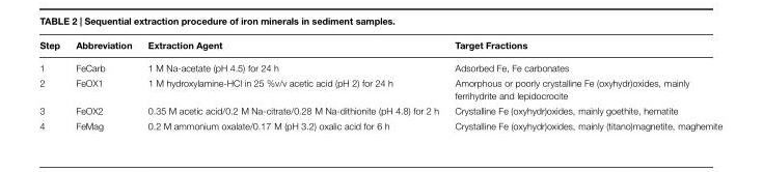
<table><thead><tr><td>Step</td><td>Abbreviation</td><td>Extraction Agent</td><td>Target Fractions</td></tr></thead><tbody><tr><td>1</td><td>FeCarb</td><td>1 M Na-acetate (pH 4.5) for 24 h</td><td>Adsorbed Fe, Fe carbonates</td></tr><tr><td>2</td><td>FeOX1</td><td>1 M hydroxylamine-HCl in 25 %v/v acetic acid (pH 2) for 24 h</td><td>Amorphous or poorly crystalline Fe (oxyhydr)oxides, mainly ferrihydrite and lepidocrocite</td></tr><tr><td>3</td><td>FeOX2</td><td>0.35 M acetic acid/0.2 M Na-citrate/0.28 M Na-dithionite (pH 4.8) for 2 h</td><td>Crystalline Fe (oxyhydr)oxides, mainly goethite, hematite</td></tr><tr><td>4</td><td>FeMag</td><td>0.2 M ammonium oxalate/0.17 M (pH 3.2) oxalic acid for 6 h</td><td>Crystalline Fe (oxyhydr)oxides, mainly (titano)magnetite, maghemite</td></tr></tbody></table>